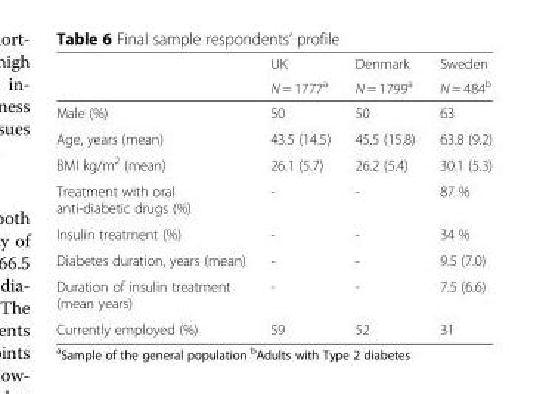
<table><thead><tr><td rowspan="2"></td><td rowspan="2">UK N = 1777<sup>a</sup></td><td rowspan="2">Denmark N = 1799<sup>a</sup></td><td rowspan="2">Sweden N = 484<sup>b</sup></td></tr><tr></tr></thead><tbody><tr><td>Male (%)</td><td>50</td><td>50</td><td>63</td></tr><tr><td>Age, years (mean)</td><td>43.5 (14.5)</td><td>45.5 (15.8)</td><td>63.8 (9.2)</td></tr><tr><td>BMI kg/m<sup>2</sup> (mean)</td><td>26.1 (5.7)</td><td>26.2 (5.4)</td><td>30.1 (5.3)</td></tr><tr><td>Treatment with oral anti-diabetic drugs (%)</td><td>-</td><td>-</td><td>87 %</td></tr><tr><td>Insulin treatment (%)</td><td>-</td><td>-</td><td>34 %</td></tr><tr><td>Diabetes duration, years (mean)</td><td>-</td><td>-</td><td>9.5 (7.0)</td></tr><tr><td>Duration of insulin treatment (mean years)</td><td>-</td><td>-</td><td>7.5 (6.6)</td></tr><tr><td>Currently employed (%)</td><td>59</td><td>52</td><td>31</td></tr></tbody></table>